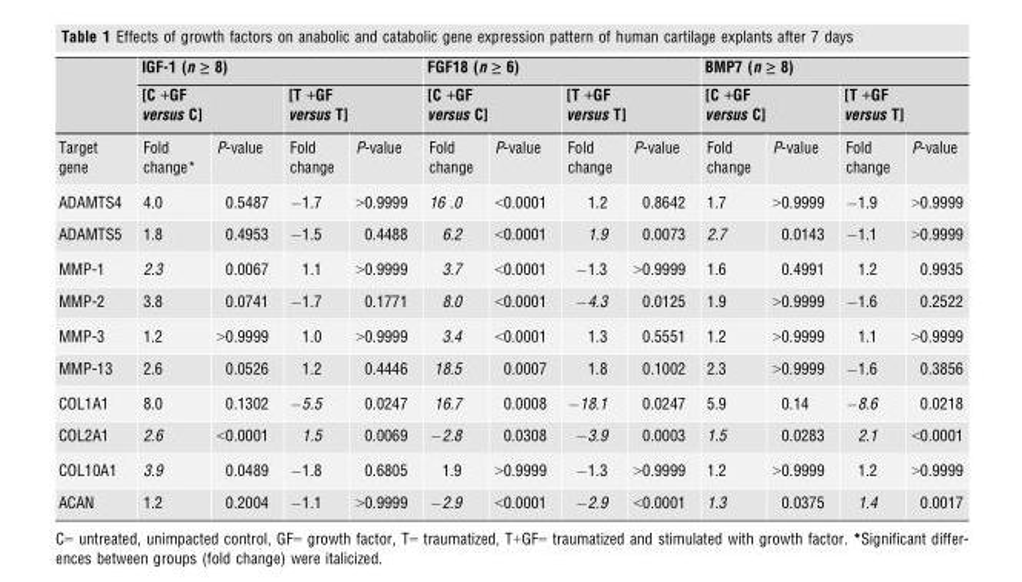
<table><thead><tr><td rowspan="3">Target gene</td><td colspan="4">IGF-1 (n ≥ 8)</td><td colspan="4">FGF18 (n ≥ 6)</td><td colspan="4">BMP7 (n ≥ 8)</td></tr><tr><td colspan="2">[C +GF versus C]</td><td colspan="2">[T +GF versus T]</td><td colspan="2">[C +GF versus C]</td><td colspan="2">[T +GF versus T]</td><td colspan="2">[C +GF versus C]</td><td colspan="2">[T +GF versus T]</td></tr><tr><td>Fold change*</td><td>P-value</td><td>Fold change</td><td>P-value</td><td>Fold change</td><td>P-value</td><td>Fold change</td><td>P-value</td><td>Fold change</td><td>P-value</td><td>Fold change</td><td>P-value</td></tr></thead><tbody><tr><td>ADAMTS4</td><td>4.0</td><td>0.5487</td><td>−1.7</td><td>&gt;0.9999</td><td>16 .0</td><td>&lt;0.0001</td><td>1.2</td><td>0.8642</td><td>1.7</td><td>&gt;0.9999</td><td>−1.9</td><td>&gt;0.9999</td></tr><tr><td>ADAMTS5</td><td>1.8</td><td>0.4953</td><td>−1.5</td><td>0.4488</td><td>6.2</td><td>&lt;0.0001</td><td>1.9</td><td>0.0073</td><td>2.7</td><td>0.0143</td><td>−1.1</td><td>&gt;0.9999</td></tr><tr><td>MMP-1</td><td>2.3</td><td>0.0067</td><td>1.1</td><td>&gt;0.9999</td><td>3.7</td><td>&lt;0.0001</td><td>−1.3</td><td>&gt;0.9999</td><td>1.6</td><td>0.4991</td><td>1.2</td><td>0.9935</td></tr><tr><td>MMP-2</td><td>3.8</td><td>0.0741</td><td>−1.7</td><td>0.1771</td><td>8.0</td><td>&lt;0.0001</td><td>−4.3</td><td>0.0125</td><td>1.9</td><td>&gt;0.9999</td><td>−1.6</td><td>0.2522</td></tr><tr><td>MMP-3</td><td>1.2</td><td>&gt;0.9999</td><td>1.0</td><td>&gt;0.9999</td><td>3.4</td><td>&lt;0.0001</td><td>1.3</td><td>0.5551</td><td>1.2</td><td>&gt;0.9999</td><td>1.1</td><td>&gt;0.9999</td></tr><tr><td>MMP-13</td><td>2.6</td><td>0.0526</td><td>1.2</td><td>0.4446</td><td>18.5</td><td>0.0007</td><td>1.8</td><td>0.1002</td><td>2.3</td><td>&gt;0.9999</td><td>−1.6</td><td>0.3856</td></tr><tr><td>COL1A1</td><td>8.0</td><td>0.1302</td><td>−5.5</td><td>0.0247</td><td>16.7</td><td>0.0008</td><td>−18.1</td><td>0.0247</td><td>5.9</td><td>0.14</td><td>−8.6</td><td>0.0218</td></tr><tr><td>COL2A1</td><td>2.6</td><td>&lt;0.0001</td><td>1.5</td><td>0.0069</td><td>−2.8</td><td>0.0308</td><td>−3.9</td><td>0.0003</td><td>1.5</td><td>0.0283</td><td>2.1</td><td>&lt;0.0001</td></tr><tr><td>COL10A1</td><td>3.9</td><td>0.0489</td><td>−1.8</td><td>0.6805</td><td>1.9</td><td>&gt;0.9999</td><td>−1.3</td><td>&gt;0.9999</td><td>1.2</td><td>&gt;0.9999</td><td>1.2</td><td>&gt;0.9999</td></tr><tr><td>ACAN</td><td>1.2</td><td>0.2004</td><td>−1.1</td><td>&gt;0.9999</td><td>−2.9</td><td>&lt;0.0001</td><td>−2.9</td><td>&lt;0.0001</td><td>1.3</td><td>0.0375</td><td>1.4</td><td>0.0017</td></tr></tbody></table>